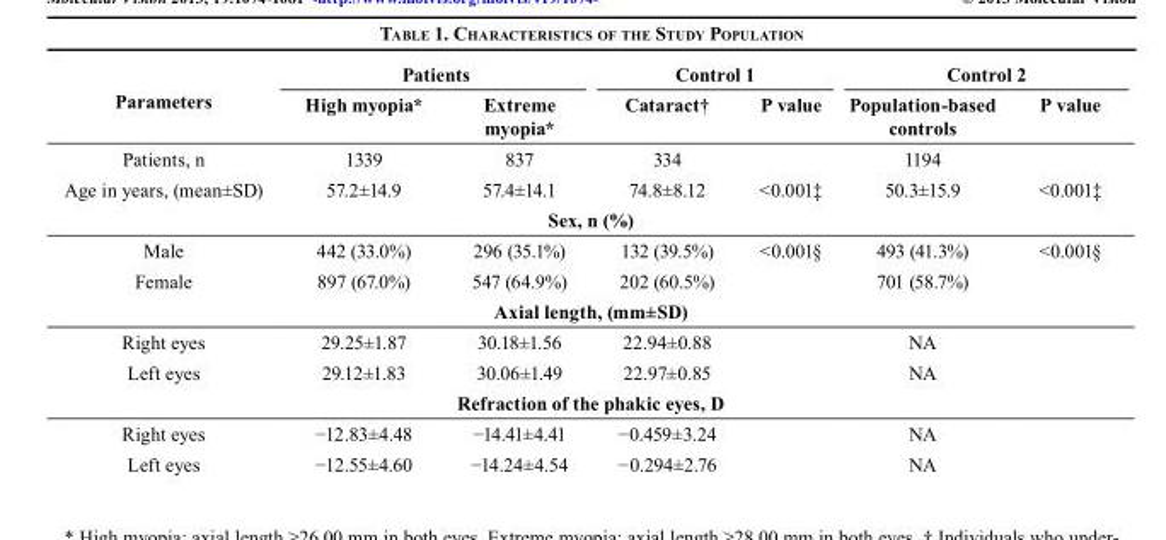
<table><thead><tr><td rowspan="2">Parameters</td><td colspan="2">Patients</td><td colspan="2">Control 1</td><td colspan="2">Control 2</td></tr><tr><td>High myopia*</td><td>Extreme myopia*</td><td>Cataract†</td><td>P value</td><td>Population-based controls</td><td>P value</td></tr></thead><tbody><tr><td>Patients, n</td><td>1339</td><td>837</td><td>334</td><td></td><td>1194</td><td></td></tr><tr><td>Age in years, (mean±SD)</td><td>57.2±14.9</td><td>57.4±14.1</td><td>74.8±8.12</td><td>&lt;0.001‡</td><td>50.3±15.9</td><td>&lt;0.001‡</td></tr><tr><td colspan="7">Sex, n (%)</td></tr><tr><td>Male</td><td>442 (33.0%)</td><td>296 (35.1%)</td><td>132 (39.5%)</td><td>&lt;0.001§</td><td>493 (41.3%)</td><td>&lt;0.001§</td></tr><tr><td>Female</td><td>897 (67.0%)</td><td>547 (64.9%)</td><td>202 (60.5%)</td><td></td><td>701 (58.7%)</td><td></td></tr><tr><td colspan="7">Axial length, (mm±SD)</td></tr><tr><td>Right eyes</td><td>29.25±1.87</td><td>30.18±1.56</td><td>22.94±0.88</td><td></td><td>NA</td><td></td></tr><tr><td>Left eyes</td><td>29.12±1.83</td><td>30.06±1.49</td><td>22.97±0.85</td><td></td><td>NA</td><td></td></tr><tr><td colspan="7">Refraction of the phakic eyes, D</td></tr><tr><td>Right eyes</td><td>−12.83±4.48</td><td>−14.41±4.41</td><td>−0.459±3.24</td><td></td><td>NA</td><td></td></tr><tr><td>Left eyes</td><td>−12.55±4.60</td><td>−14.24±4.54</td><td>−0.294±2.76</td><td></td><td>NA</td><td></td></tr></tbody></table>